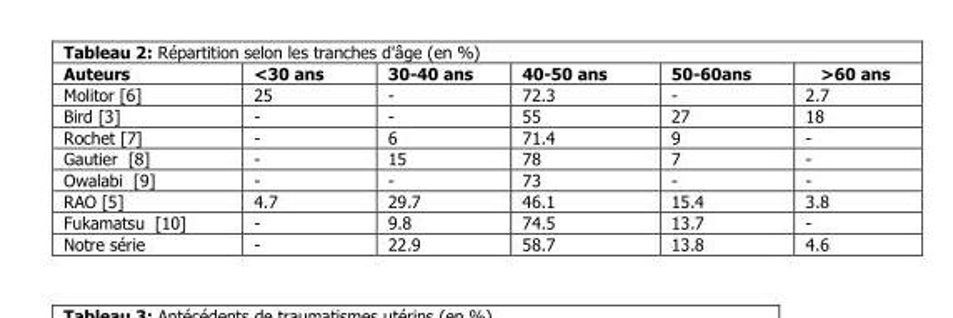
<table><thead><tr><td>Auteurs</td><td>&lt;30 ans</td><td>30-40 ans</td><td>40-50 ans</td><td>50-60ans</td><td>&gt;60 ans</td></tr></thead><tbody><tr><td>Molitor [6]</td><td>25</td><td>-</td><td>72.3</td><td>-</td><td>2.7</td></tr><tr><td>Bird [3]</td><td>-</td><td>-</td><td>55</td><td>27</td><td>18</td></tr><tr><td>Rochet [7]</td><td>-</td><td>6</td><td>71.4</td><td>9</td><td>-</td></tr><tr><td>Gautier [8]</td><td>-</td><td>15</td><td>78</td><td>7</td><td>-</td></tr><tr><td>Owalabi [9]</td><td>-</td><td>-</td><td>73</td><td>-</td><td>-</td></tr><tr><td>RAO [5]</td><td>4.7</td><td>29.7</td><td>46.1</td><td>15.4</td><td>3.8</td></tr><tr><td>Fukamatsu [10]</td><td>-</td><td>9.8</td><td>74.5</td><td>13.7</td><td>-</td></tr><tr><td>Notre série</td><td>-</td><td>22.9</td><td>58.7</td><td>13.8</td><td>4.6</td></tr></tbody></table>